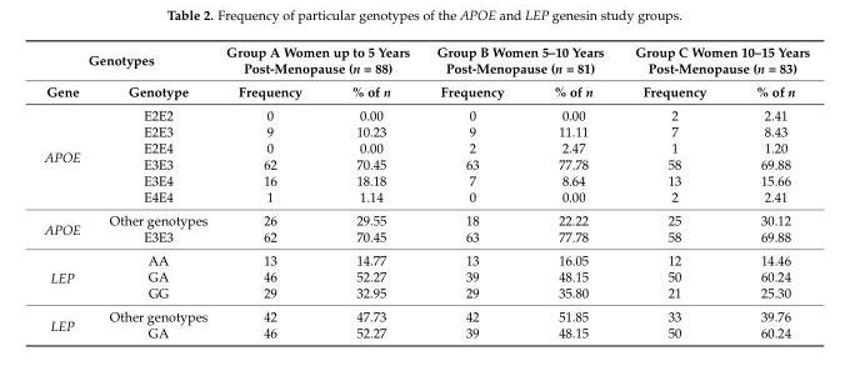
<table><thead><tr><td colspan="2">Genotypes</td><td colspan="2">Group A Women up to 5 Years Post-Menopause (n = 88)</td><td colspan="2">Group B Women 5–10 Years Post-Menopause (n = 81)</td><td colspan="2">Group C Women 10–15 Years Post-Menopause (n = 83)</td></tr><tr><td>Gene</td><td>Genotype</td><td>Frequency</td><td>% of n</td><td>Frequency</td><td>% of n</td><td>Frequency</td><td>% of n</td></tr></thead><tbody><tr><td rowspan="6">APOE</td><td>E2E2</td><td>0</td><td>0.00</td><td>0</td><td>0.00</td><td>2</td><td>2.41</td></tr><tr><td>E2E3</td><td>9</td><td>10.23</td><td>9</td><td>11.11</td><td>7</td><td>8.43</td></tr><tr><td>E2E4</td><td>0</td><td>0.00</td><td>2</td><td>2.47</td><td>1</td><td>1.20</td></tr><tr><td>E3E3</td><td>62</td><td>70.45</td><td>63</td><td>77.78</td><td>58</td><td>69.88</td></tr><tr><td>E3E4</td><td>16</td><td>18.18</td><td>7</td><td>8.64</td><td>13</td><td>15.66</td></tr><tr><td>E4E4</td><td>1</td><td>1.14</td><td>0</td><td>0.00</td><td>2</td><td>2.41</td></tr><tr><td rowspan="2">APOE</td><td>Other genotypes</td><td>26</td><td>29.55</td><td>18</td><td>22.22</td><td>25</td><td>30.12</td></tr><tr><td>E3E3</td><td>62</td><td>70.45</td><td>63</td><td>77.78</td><td>58</td><td>69.88</td></tr><tr><td rowspan="3">LEP</td><td>AA</td><td>13</td><td>14.77</td><td>13</td><td>16.05</td><td>12</td><td>14.46</td></tr><tr><td>GA</td><td>46</td><td>52.27</td><td>39</td><td>48.15</td><td>50</td><td>60.24</td></tr><tr><td>GG</td><td>29</td><td>32.95</td><td>29</td><td>35.80</td><td>21</td><td>25.30</td></tr><tr><td rowspan="2">LEP</td><td>Other genotypes</td><td>42</td><td>47.73</td><td>42</td><td>51.85</td><td>33</td><td>39.76</td></tr><tr><td>GA</td><td>46</td><td>52.27</td><td>39</td><td>48.15</td><td>50</td><td>60.24</td></tr></tbody></table>